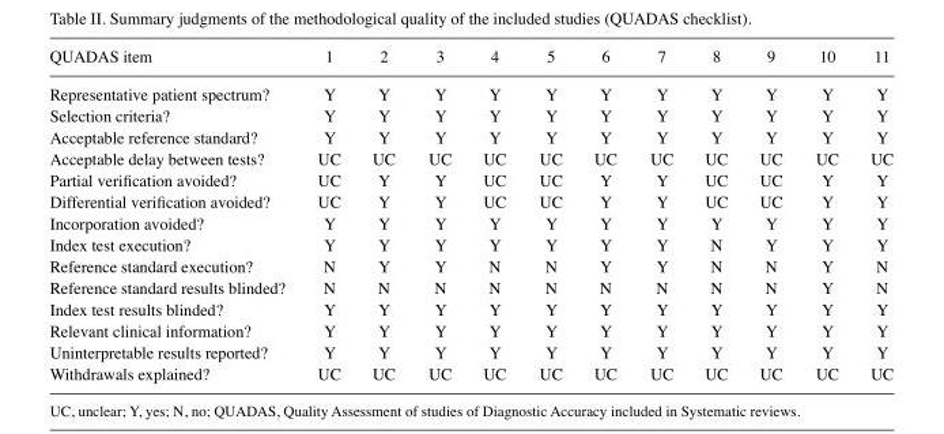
<table><thead><tr><td>QUADAS item</td><td>1</td><td>2</td><td>3</td><td>4</td><td>5</td><td>6</td><td>7</td><td>8</td><td>9</td><td>10</td><td>11</td></tr></thead><tbody><tr><td>Representative patient spectrum?</td><td>Y</td><td>Y</td><td>Y</td><td>Y</td><td>Y</td><td>Y</td><td>Y</td><td>Y</td><td>Y</td><td>Y</td><td>Y</td></tr><tr><td>Selection criteria?</td><td>Y</td><td>Y</td><td>Y</td><td>Y</td><td>Y</td><td>Y</td><td>Y</td><td>Y</td><td>Y</td><td>Y</td><td>Y</td></tr><tr><td>Acceptable reference standard?</td><td>Y</td><td>Y</td><td>Y</td><td>Y</td><td>Y</td><td>Y</td><td>Y</td><td>Y</td><td>Y</td><td>Y</td><td>Y</td></tr><tr><td>Acceptable delay between tests?</td><td>UC</td><td>UC</td><td>UC</td><td>UC</td><td>UC</td><td>UC</td><td>UC</td><td>UC</td><td>UC</td><td>UC</td><td>UC</td></tr><tr><td>Partial verification avoided?</td><td>UC</td><td>Y</td><td>Y</td><td>UC</td><td>UC</td><td>Y</td><td>Y</td><td>UC</td><td>UC</td><td>Y</td><td>Y</td></tr><tr><td>Differential verification avoided?</td><td>UC</td><td>Y</td><td>Y</td><td>UC</td><td>UC</td><td>Y</td><td>Y</td><td>UC</td><td>UC</td><td>Y</td><td>Y</td></tr><tr><td>Incorporation avoided?</td><td>Y</td><td>Y</td><td>Y</td><td>Y</td><td>Y</td><td>Y</td><td>Y</td><td>Y</td><td>Y</td><td>Y</td><td>Y</td></tr><tr><td>Index test execution?</td><td>Y</td><td>Y</td><td>Y</td><td>Y</td><td>Y</td><td>Y</td><td>Y</td><td>N</td><td>Y</td><td>Y</td><td>Y</td></tr><tr><td>Reference standard execution?</td><td>N</td><td>Y</td><td>Y</td><td>N</td><td>N</td><td>Y</td><td>Y</td><td>N</td><td>N</td><td>Y</td><td>N</td></tr><tr><td>Reference standard results blinded?</td><td>N</td><td>N</td><td>N</td><td>N</td><td>N</td><td>N</td><td>N</td><td>N</td><td>N</td><td>Y</td><td>N</td></tr><tr><td>Index test results blinded?</td><td>Y</td><td>Y</td><td>Y</td><td>Y</td><td>Y</td><td>Y</td><td>Y</td><td>Y</td><td>Y</td><td>Y</td><td>Y</td></tr><tr><td>Relevant clinical information?</td><td>Y</td><td>Y</td><td>Y</td><td>Y</td><td>Y</td><td>Y</td><td>Y</td><td>Y</td><td>Y</td><td>Y</td><td>Y</td></tr><tr><td>Uninterpretable results reported?</td><td>Y</td><td>Y</td><td>Y</td><td>Y</td><td>Y</td><td>Y</td><td>Y</td><td>Y</td><td>Y</td><td>Y</td><td>Y</td></tr><tr><td>Withdrawals explained?</td><td>UC</td><td>UC</td><td>UC</td><td>UC</td><td>UC</td><td>UC</td><td>UC</td><td>UC</td><td>UC</td><td>UC</td><td>UC</td></tr></tbody></table>